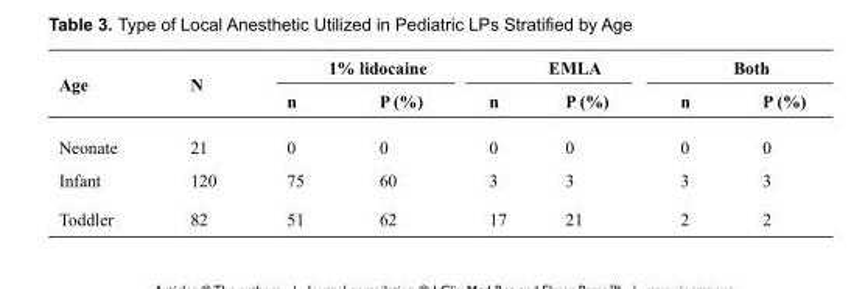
<table><thead><tr><td rowspan="2">Age</td><td rowspan="2">N</td><td colspan="2">1% lidocaine</td><td colspan="2">EMLA</td><td colspan="2">Both</td></tr><tr><td>n</td><td>P (%)</td><td>n</td><td>P (%)</td><td>n</td><td>P (%)</td></tr></thead><tbody><tr><td>Neonate</td><td>21</td><td>0</td><td>0</td><td>0</td><td>0</td><td>0</td><td>0</td></tr><tr><td>Infant</td><td>120</td><td>75</td><td>60</td><td>3</td><td>3</td><td>3</td><td>3</td></tr><tr><td>Toddler</td><td>82</td><td>51</td><td>62</td><td>17</td><td>21</td><td>2</td><td>2</td></tr></tbody></table>